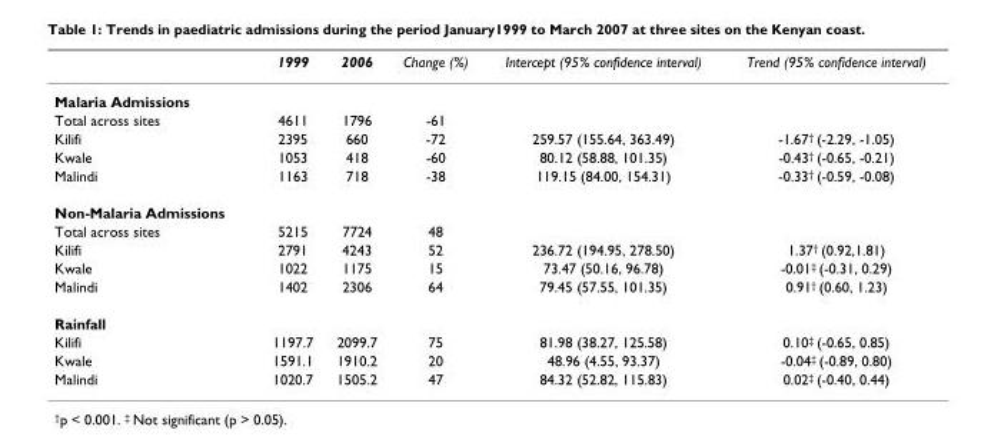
<table><thead><tr><td></td><td>1999</td><td>2006</td><td>Change (%)</td><td>Intercept (95% confidence interval)</td><td>Trend (95% confidence interval)</td></tr></thead><tbody><tr><td colspan="6">Malaria Admissions</td></tr><tr><td>Total across sites</td><td>4611</td><td>1796</td><td>-61</td><td></td><td></td></tr><tr><td>Kilifi</td><td>2395</td><td>660</td><td>-72</td><td>259.57 (155.64, 363.49)</td><td>-1.67<sup>†</sup> (-2.29, -1.05)</td></tr><tr><td>Kwale</td><td>1053</td><td>418</td><td>-60</td><td>80.12 (58.88, 101.35)</td><td>-0.43<sup>†</sup> (-0.65, -0.21)</td></tr><tr><td>Malindi</td><td>1163</td><td>718</td><td>-38</td><td>119.15 (84.00, 154.31)</td><td>-0.33<sup>†</sup> (-0.59, -0.08)</td></tr><tr><td colspan="6">Non-Malaria Admissions</td></tr><tr><td>Total across sites</td><td>5215</td><td>7724</td><td>48</td><td></td><td></td></tr><tr><td>Kilifi</td><td>2791</td><td>4243</td><td>52</td><td>236.72 (194.95, 278.50)</td><td>1.37<sup>†</sup> (0.92,1.81)</td></tr><tr><td>Kwale</td><td>1022</td><td>1175</td><td>15</td><td>73.47 (50.16, 96.78)</td><td>-0.01<sup>‡</sup> (-0.31, 0.29)</td></tr><tr><td>Malindi</td><td>1402</td><td>2306</td><td>64</td><td>79.45 (57.55, 101.35)</td><td>0.91<sup>†</sup> (0.60, 1.23)</td></tr><tr><td colspan="6">Rainfall</td></tr><tr><td>Kilifi</td><td>1197.7</td><td>2099.7</td><td>75</td><td>81.98 (38.27, 125.58)</td><td>0.10<sup>‡</sup> (-0.65, 0.85)</td></tr><tr><td>Kwale</td><td>1591.1</td><td>1910.2</td><td>20</td><td>48.96 (4.55, 93.37)</td><td>-0.04<sup>‡</sup> (-0.89, 0.80)</td></tr><tr><td>Malindi</td><td>1020.7</td><td>1505.2</td><td>47</td><td>84.32 (52.82, 115.83)</td><td>0.02<sup>‡</sup> (-0.40, 0.44)</td></tr></tbody></table>